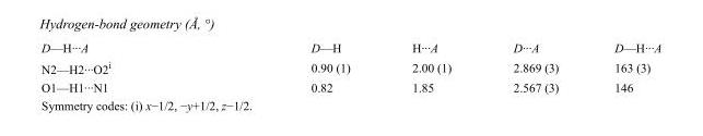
<table><tbody><tr><td>D—H···A</td><td>D—H</td><td>H···A</td><td>D···A</td><td>D—H···A</td></tr><tr><td>N2—H2···O2<sup>i</sup></td><td>0.90 (1)</td><td>2.00 (1)</td><td>2.869 (3)</td><td>163 (3)</td></tr><tr><td>O1—H1···N1</td><td>0.82</td><td>1.85</td><td>2.567 (3)</td><td>146</td></tr></tbody></table>